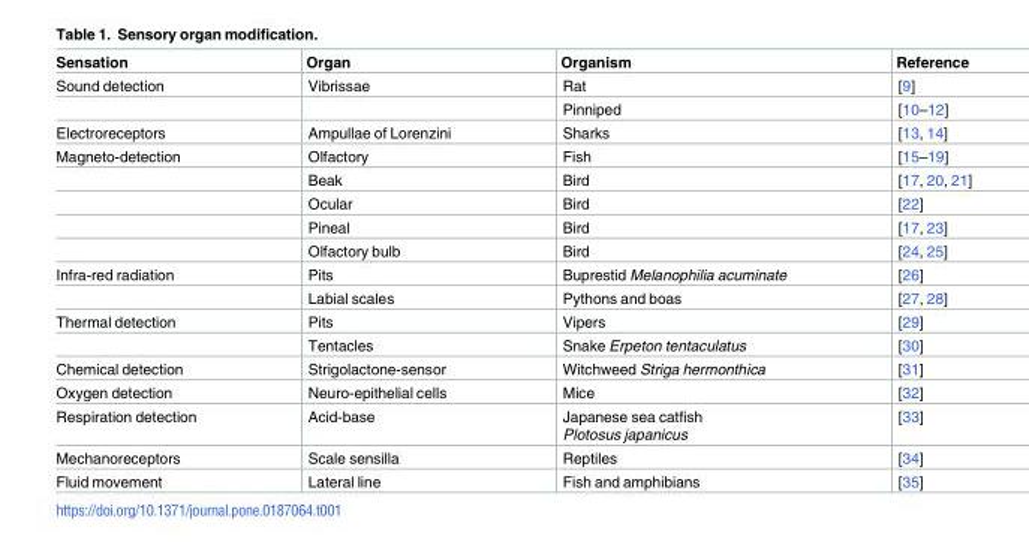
<table><thead><tr><td>Sensation</td><td>Organ</td><td>Organism</td><td>Reference</td></tr></thead><tbody><tr><td rowspan="2">Sound detection</td><td>Vibrissae</td><td>Rat</td><td>[9]</td></tr><tr><td></td><td>Pinniped</td><td>[10–12]</td></tr><tr><td>Electroreceptors</td><td>Ampullae of Lorenzini</td><td>Sharks</td><td>[13, 14]</td></tr><tr><td rowspan="5">Magneto-detection</td><td>Olfactory</td><td>Fish</td><td>[15–19]</td></tr><tr><td>Beak</td><td>Bird</td><td>[17, 20, 21]</td></tr><tr><td>Ocular</td><td>Bird</td><td>[22]</td></tr><tr><td>Pineal</td><td>Bird</td><td>[17, 23]</td></tr><tr><td>Olfactory bulb</td><td>Bird</td><td>[24, 25]</td></tr><tr><td rowspan="2">Infra-red radiation</td><td>Pits</td><td>Buprestid Melanophilia acuminate</td><td>[26]</td></tr><tr><td>Labial scales</td><td>Pythons and boas</td><td>[27, 28]</td></tr><tr><td rowspan="2">Thermal detection</td><td>Pits</td><td>Vipers</td><td>[29]</td></tr><tr><td>Tentacles</td><td>Snake Erpeton tentaculatus</td><td>[30]</td></tr><tr><td>Chemical detection</td><td>Strigolactone-sensor</td><td>Witchweed Striga hermonthica</td><td>[31]</td></tr><tr><td>Oxygen detection</td><td>Neuro-epithelial cells</td><td>Mice</td><td>[32]</td></tr><tr><td>Respiration detection</td><td>Acid-base</td><td>Japanese sea catfish Plotosus japanicus</td><td>[33]</td></tr><tr><td>Mechanoreceptors</td><td>Scale sensilla</td><td>Reptiles</td><td>[34]</td></tr><tr><td>Fluid movement</td><td>Lateral line</td><td>Fish and amphibians</td><td>[35]</td></tr></tbody></table>